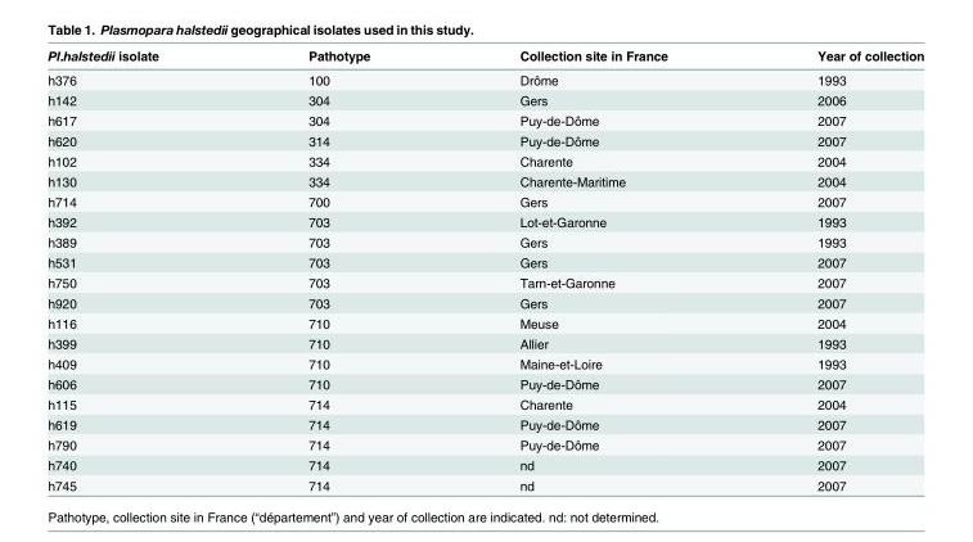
<table><thead><tr><td>Pl.halstedii isolate</td><td>Pathotype</td><td>Collection site in France</td><td>Year of collection</td></tr></thead><tbody><tr><td>h376</td><td>100</td><td>Drôme</td><td>1993</td></tr><tr><td>h142</td><td>304</td><td>Gers</td><td>2006</td></tr><tr><td>h617</td><td>304</td><td>Puy-de-Dôme</td><td>2007</td></tr><tr><td>h620</td><td>314</td><td>Puy-de-Dôme</td><td>2007</td></tr><tr><td>h102</td><td>334</td><td>Charente</td><td>2004</td></tr><tr><td>h130</td><td>334</td><td>Charente-Maritime</td><td>2004</td></tr><tr><td>h714</td><td>700</td><td>Gers</td><td>2007</td></tr><tr><td>h392</td><td>703</td><td>Lot-et-Garonne</td><td>1993</td></tr><tr><td>h389</td><td>703</td><td>Gers</td><td>1993</td></tr><tr><td>h531</td><td>703</td><td>Gers</td><td>2007</td></tr><tr><td>h750</td><td>703</td><td>Tarn-et-Garonne</td><td>2007</td></tr><tr><td>h920</td><td>703</td><td>Gers</td><td>2007</td></tr><tr><td>h116</td><td>710</td><td>Meuse</td><td>2004</td></tr><tr><td>h399</td><td>710</td><td>Allier</td><td>1993</td></tr><tr><td>h409</td><td>710</td><td>Maine-et-Loire</td><td>1993</td></tr><tr><td>h606</td><td>710</td><td>Puy-de-Dôme</td><td>2007</td></tr><tr><td>h115</td><td>714</td><td>Charente</td><td>2004</td></tr><tr><td>h619</td><td>714</td><td>Puy-de-Dôme</td><td>2007</td></tr><tr><td>h790</td><td>714</td><td>Puy-de-Dôme</td><td>2007</td></tr><tr><td>h740</td><td>714</td><td>nd</td><td>2007</td></tr><tr><td>h745</td><td>714</td><td>nd</td><td>2007</td></tr></tbody></table>